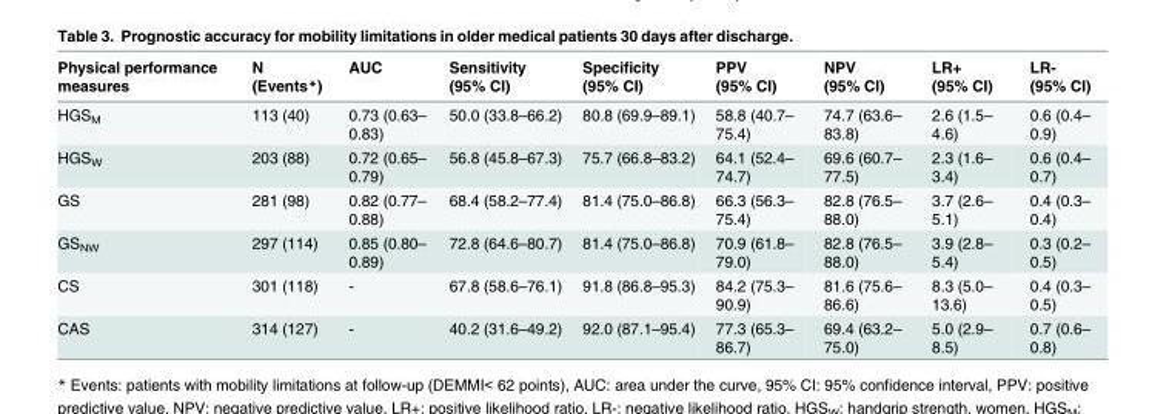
<table><thead><tr><td>Physical performance measures</td><td>N (Events*)</td><td>AUC</td><td>Sensitivity (95% CI)</td><td>Specificity (95% CI)</td><td>PPV (95% CI)</td><td>NPV (95% CI)</td><td>LR+ (95% CI)</td><td>LR- (95% CI)</td></tr></thead><tbody><tr><td>HGS<sub>M</sub></td><td>113 (40)</td><td>0.73 (0.63– 0.83)</td><td>50.0 (33.8–66.2)</td><td>80.8 (69.9–89.1)</td><td>58.8 (40.7– 75.4)</td><td>74.7 (63.6– 83.8)</td><td>2.6 (1.5– 4.6)</td><td>0.6 (0.4– 0.9)</td></tr><tr><td>HGS<sub>W</sub></td><td>203 (88)</td><td>0.72 (0.65– 0.79)</td><td>56.8 (45.8–67.3)</td><td>75.7 (66.8–83.2)</td><td>64.1 (52.4– 74.7)</td><td>69.6 (60.7– 77.5)</td><td>2.3 (1.6– 3.4)</td><td>0.6 (0.4– 0.7)</td></tr><tr><td>GS</td><td>281 (98)</td><td>0.82 (0.77– 0.88)</td><td>68.4 (58.2–77.4)</td><td>81.4 (75.0–86.8)</td><td>66.3 (56.3– 75.4)</td><td>82.8 (76.5– 88.0)</td><td>3.7 (2.6– 5.1)</td><td>0.4 (0.3– 0.4)</td></tr><tr><td>GS<sub>NW</sub></td><td>297 (114)</td><td>0.85 (0.80– 0.89)</td><td>72.8 (64.6–80.7)</td><td>81.4 (75.0–86.8)</td><td>70.9 (61.8– 79.0)</td><td>82.8 (76.5– 88.0)</td><td>3.9 (2.8– 5.4)</td><td>0.3 (0.2– 0.5)</td></tr><tr><td>CS</td><td>301 (118)</td><td>-</td><td>67.8 (58.6–76.1)</td><td>91.8 (86.8–95.3)</td><td>84.2 (75.3– 90.9)</td><td>81.6 (75.6– 86.6)</td><td>8.3 (5.0– 13.6)</td><td>0.4 (0.3– 0.5)</td></tr><tr><td>CAS</td><td>314 (127)</td><td>-</td><td>40.2 (31.6–49.2)</td><td>92.0 (87.1–95.4)</td><td>77.3 (65.3– 86.7)</td><td>69.4 (63.2– 75.0)</td><td>5.0 (2.9– 8.5)</td><td>0.7 (0.6– 0.8)</td></tr></tbody></table>